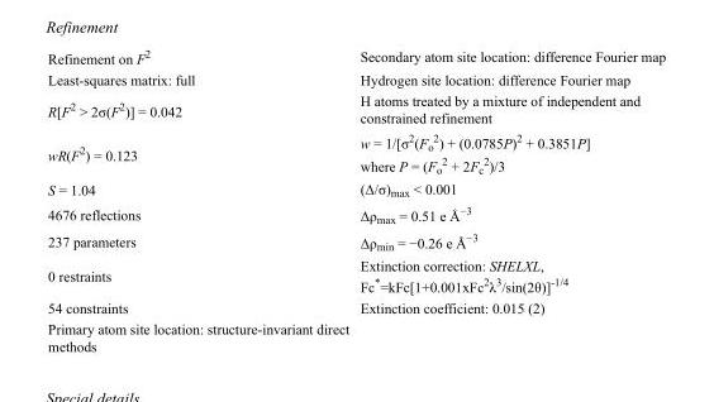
<table><tbody><tr><td>Refinement on F<sup>2</sup></td><td>Secondary atom site location: difference Fourier map</td></tr><tr><td>Least-squares matrix: full</td><td>Hydrogen site location: difference Fourier map</td></tr><tr><td>R[F<sup>2</sup> &gt; 2σ(F<sup>2</sup>)] = 0.042</td><td>H atoms treated by a mixture of independent and constrained refinement</td></tr><tr><td>wR(F<sup>2</sup>) = 0.123</td><td>w = 1/[σ<sup>2</sup>(F<sub>o</sub> <sup>2</sup>) + (0.0785P)<sup>2</sup> + 0.3851P] where P = (F<sub>o</sub> <sup>2</sup> + 2F<sub>c</sub> <sup>2</sup>)/3</td></tr><tr><td>S = 1.04</td><td>(Δ/σ)<sub>max</sub> &lt; 0.001</td></tr><tr><td>4676 reflections</td><td>Δρ<sub>max</sub> = 0.51 e Å<sup>−3</sup></td></tr><tr><td>237 parameters</td><td>Δρ<sub>min</sub> = −0.26 e Å<sup>−3</sup></td></tr><tr><td>0 restraints</td><td>Extinction correction: SHELXL, Fc*=kFc[1+0.001xFc<sup>2</sup>λ<sup>3</sup>/sin(2θ)]<sup>-1/4</sup></td></tr><tr><td>54 constraints</td><td>Extinction coefficient: 0.015 (2)</td></tr><tr><td>Primary atom site location: structure-invariant direct methods</td><td></td></tr></tbody></table>